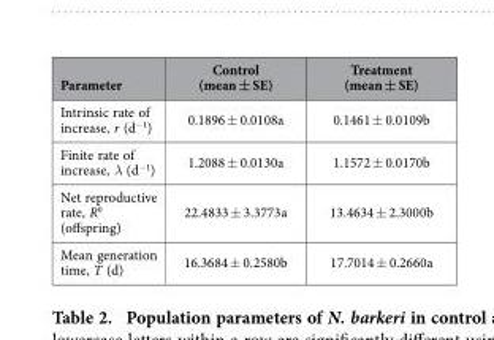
<table><thead><tr><td>Parameter</td><td>Control (mean ± SE)</td><td>Treatment (mean ± SE)</td></tr></thead><tbody><tr><td>Intrinsic rate of increase, r (d<sup>−1</sup>)</td><td>0.1896 ± 0.0108a</td><td>0.1461 ± 0.0109b</td></tr><tr><td>Finite rate of increase, λ (d<sup>−1</sup>)</td><td>1.2088 ± 0.0130a</td><td>1.1572 ± 0.0170b</td></tr><tr><td>Net reproductive rate, R<sup>0</sup> (offspring)</td><td>22.4833 ± 3.3773a</td><td>13.4634 ± 2.3000b</td></tr><tr><td>Mean generation time, T (d)</td><td>16.3684 ± 0.2580b</td><td>17.7014 ± 0.2660a</td></tr></tbody></table>